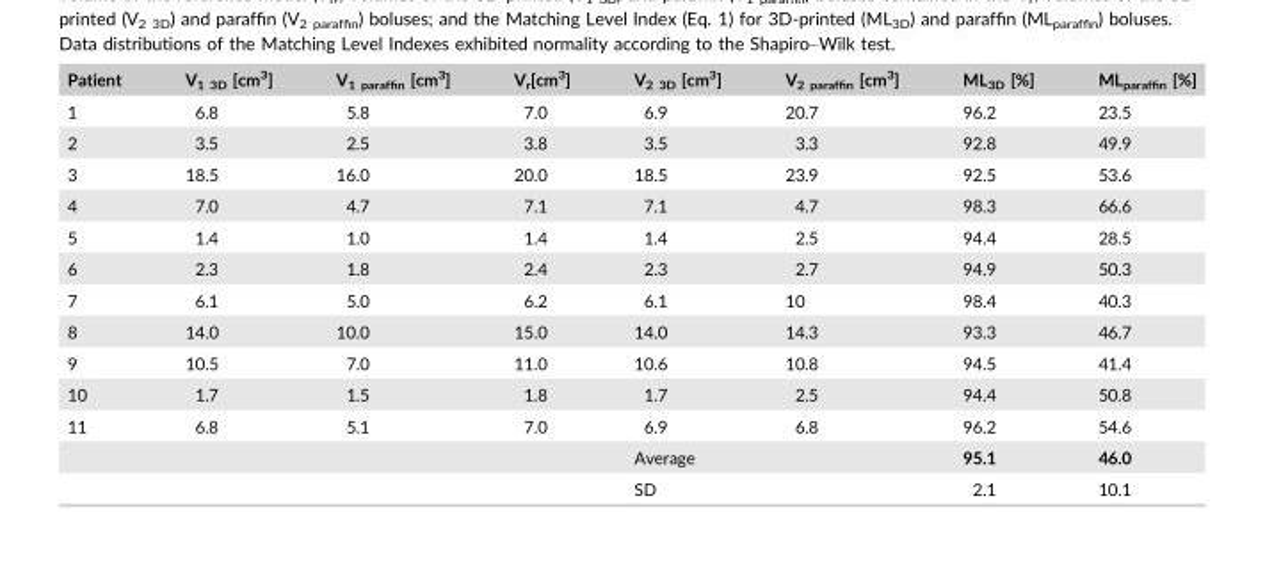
<table><thead><tr><td>Patient</td><td>V<sub>1 3D</sub> [cm<sup>3</sup>]</td><td>V<sub>1 paraffin</sub> [cm<sup>3</sup>]</td><td>V<sub>r</sub>[cm<sup>3</sup>]</td><td>V<sub>2 3D</sub> [cm<sup>3</sup>]</td><td>V<sub>2 paraffin</sub> [cm<sup>3</sup>]</td><td>ML<sub>3D</sub> [%]</td><td>ML<sub>paraffin</sub> [%]</td></tr></thead><tbody><tr><td>1</td><td>6.8</td><td>5.8</td><td>7.0</td><td>6.9</td><td>20.7</td><td>96.2</td><td>23.5</td></tr><tr><td>2</td><td>3.5</td><td>2.5</td><td>3.8</td><td>3.5</td><td>3.3</td><td>92.8</td><td>49.9</td></tr><tr><td>3</td><td>18.5</td><td>16.0</td><td>20.0</td><td>18.5</td><td>23.9</td><td>92.5</td><td>53.6</td></tr><tr><td>4</td><td>7.0</td><td>4.7</td><td>7.1</td><td>7.1</td><td>4.7</td><td>98.3</td><td>66.6</td></tr><tr><td>5</td><td>1.4</td><td>1.0</td><td>1.4</td><td>1.4</td><td>2.5</td><td>94.4</td><td>28.5</td></tr><tr><td>6</td><td>2.3</td><td>1.8</td><td>2.4</td><td>2.3</td><td>2.7</td><td>94.9</td><td>50.3</td></tr><tr><td>7</td><td>6.1</td><td>5.0</td><td>6.2</td><td>6.1</td><td>10</td><td>98.4</td><td>40.3</td></tr><tr><td>8</td><td>14.0</td><td>10.0</td><td>15.0</td><td>14.0</td><td>14.3</td><td>93.3</td><td>46.7</td></tr><tr><td>9</td><td>10.5</td><td>7.0</td><td>11.0</td><td>10.6</td><td>10.8</td><td>94.5</td><td>41.4</td></tr><tr><td>10</td><td>1.7</td><td>1.5</td><td>1.8</td><td>1.7</td><td>2.5</td><td>94.4</td><td>50.8</td></tr><tr><td rowspan="3">11</td><td>6.8</td><td>5.1</td><td>7.0</td><td>6.9</td><td>6.8</td><td>96.2</td><td>54.6</td></tr><tr><td></td><td></td><td></td><td>Average</td><td></td><td>95.1</td><td>46.0</td></tr><tr><td></td><td></td><td></td><td>SD</td><td></td><td>2.1</td><td>10.1</td></tr></tbody></table>